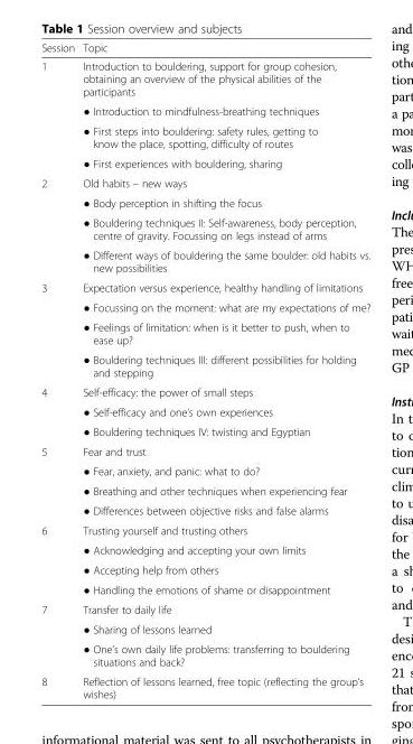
<table><thead><tr><td>Session</td><td>Topic</td></tr></thead><tbody><tr><td rowspan="4">1</td><td>Introduction to bouldering, support for group cohesion, obtaining an overview of the physical abilities of the participants</td></tr><tr><td>● Introduction to mindfulness-breathing techniques</td></tr><tr><td>● First steps into bouldering: safety rules, getting to know the place, spotting, difficulty of routes</td></tr><tr><td>● First experiences with bouldering, sharing</td></tr><tr><td rowspan="4">2</td><td>Old habits – new ways</td></tr><tr><td>● Body perception in shifting the focus</td></tr><tr><td>● Bouldering techniques II: Self-awareness, body perception, centre of gravity. Focussing on legs instead of arms</td></tr><tr><td>● Different ways of bouldering the same boulder: old habits vs. new possibilities</td></tr><tr><td rowspan="4">3</td><td>Expectation versus experience, healthy handling of limitations</td></tr><tr><td>● Focussing on the moment: what are my expectations of me?</td></tr><tr><td>● Feelings of limitation: when is it better to push, when to ease up?</td></tr><tr><td>● Bouldering techniques III: different possibilities for holding and stepping</td></tr><tr><td rowspan="3">4</td><td>Self-efficacy: the power of small steps</td></tr><tr><td>● Self-efficacy and one’s own experiences</td></tr><tr><td>● Bouldering techniques IV: twisting and Egyptian</td></tr><tr><td rowspan="4">5</td><td>Fear and trust</td></tr><tr><td>● Fear, anxiety, and panic: what to do?</td></tr><tr><td>● Breathing and other techniques when experiencing fear</td></tr><tr><td>● Differences between objective risks and false alarms</td></tr><tr><td rowspan="4">6</td><td>Trusting yourself and trusting others</td></tr><tr><td>● Acknowledging and accepting your own limits</td></tr><tr><td>● Accepting help from others</td></tr><tr><td>● Handling the emotions of shame or disappointment</td></tr><tr><td rowspan="3">7</td><td>Transfer to daily life</td></tr><tr><td>● Sharing of lessons learned</td></tr><tr><td>● One’s own daily life problems: transferring to bouldering situations and back?</td></tr><tr><td>8</td><td>Reflection of lessons learned, free topic (reflecting the group’s wishes)</td></tr></tbody></table>